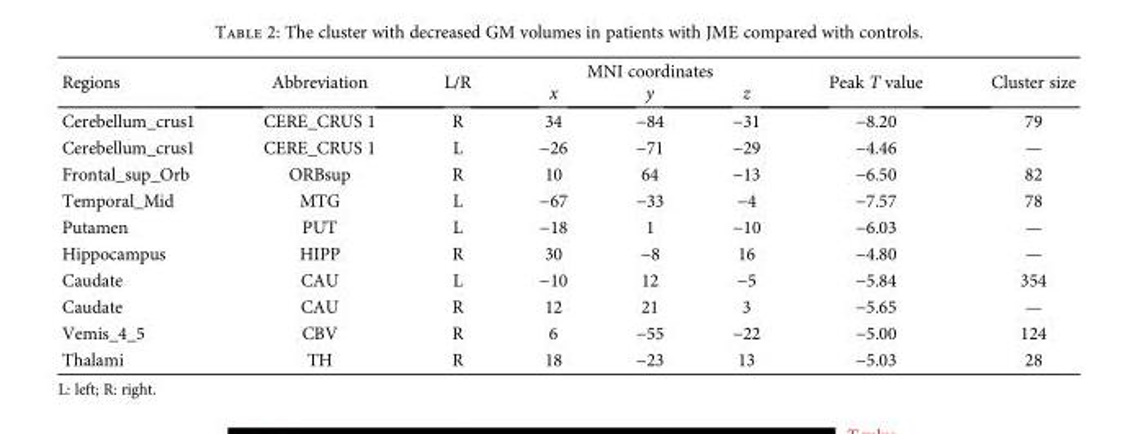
<table><thead><tr><td rowspan="2">Regions</td><td rowspan="2">Abbreviation</td><td rowspan="2">L/R</td><td colspan="3">MNI coordinates</td><td rowspan="2">Peak T value</td><td rowspan="2">Cluster size</td></tr><tr><td>x</td><td>y</td><td>z</td></tr></thead><tbody><tr><td>Cerebellum_crus1</td><td>CERE_CRUS 1</td><td>R</td><td>34</td><td>−84</td><td>−31</td><td>−8.20</td><td>79</td></tr><tr><td>Cerebellum_crus1</td><td>CERE_CRUS 1</td><td>L</td><td>−26</td><td>−71</td><td>−29</td><td>−4.46</td><td>—</td></tr><tr><td>Frontal_sup_Orb</td><td>ORBsup</td><td>R</td><td>10</td><td>64</td><td>−13</td><td>−6.50</td><td>82</td></tr><tr><td>Temporal_Mid</td><td>MTG</td><td>L</td><td>−67</td><td>−33</td><td>−4</td><td>−7.57</td><td>78</td></tr><tr><td>Putamen</td><td>PUT</td><td>L</td><td>−18</td><td>1</td><td>−10</td><td>−6.03</td><td>—</td></tr><tr><td>Hippocampus</td><td>HIPP</td><td>R</td><td>30</td><td>−8</td><td>16</td><td>−4.80</td><td>—</td></tr><tr><td>Caudate</td><td>CAU</td><td>L</td><td>−10</td><td>12</td><td>−5</td><td>−5.84</td><td>354</td></tr><tr><td>Caudate</td><td>CAU</td><td>R</td><td>12</td><td>21</td><td>3</td><td>−5.65</td><td>—</td></tr><tr><td>Vemis_4_5</td><td>CBV</td><td>R</td><td>6</td><td>−55</td><td>−22</td><td>−5.00</td><td>124</td></tr><tr><td>Thalami</td><td>TH</td><td>R</td><td>18</td><td>−23</td><td>13</td><td>−5.03</td><td>28</td></tr></tbody></table>